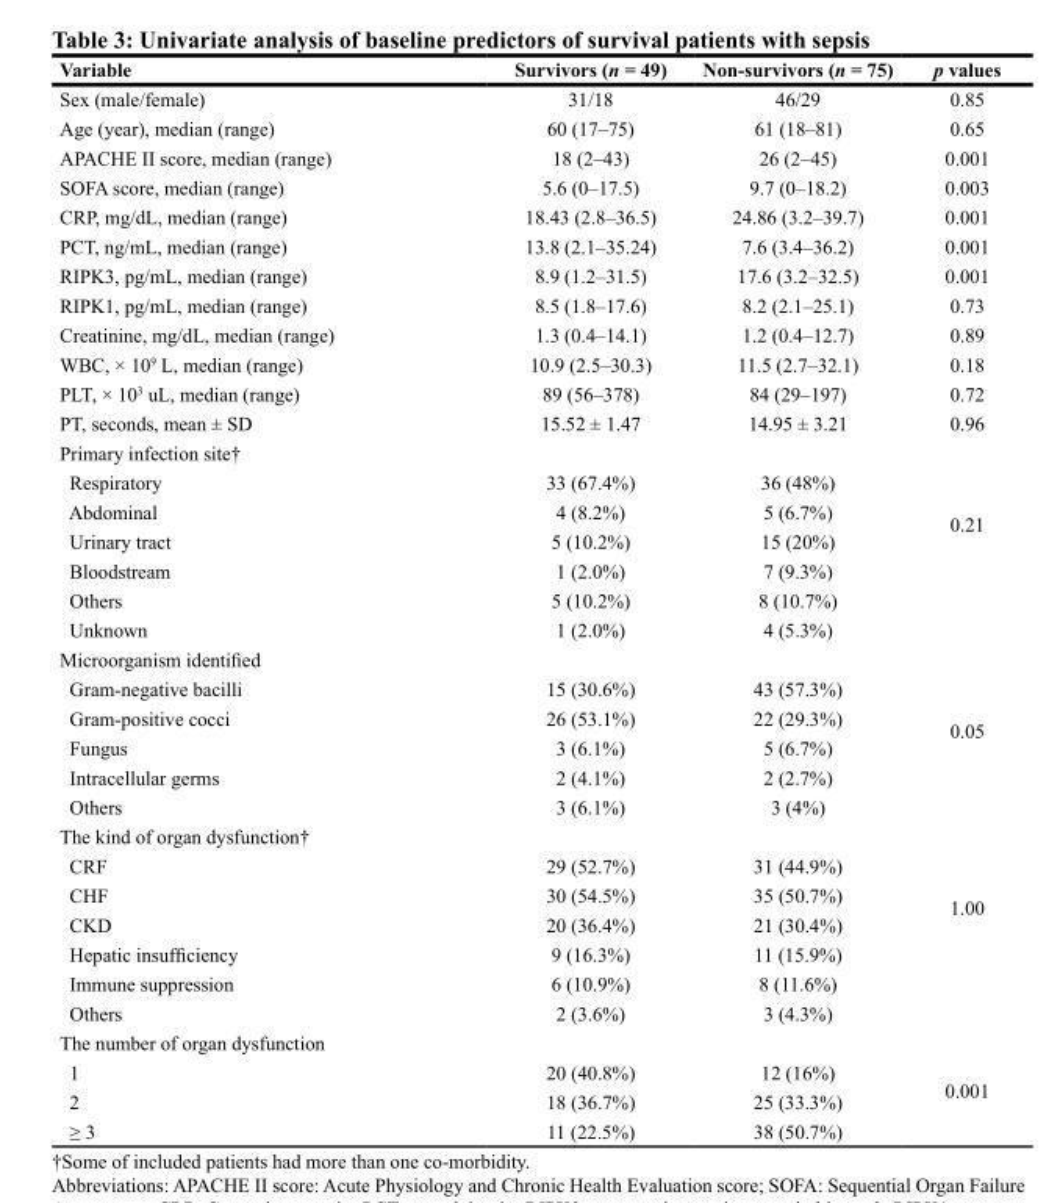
<table><thead><tr><td>Variable</td><td>Survivors (n = 49)</td><td>Non-survivors (n = 75)</td><td>p values</td></tr></thead><tbody><tr><td>Sex (male/female)</td><td>31/18</td><td>46/29</td><td>0.85</td></tr><tr><td>Age (year), median (range)</td><td>60 (17–75)</td><td>61 (18–81)</td><td>0.65</td></tr><tr><td>APACHE II score, median (range)</td><td>18 (2–43)</td><td>26 (2–45)</td><td>0.001</td></tr><tr><td>SOFA score, median (range)</td><td>5.6 (0–17.5)</td><td>9.7 (0–18.2)</td><td>0.003</td></tr><tr><td>CRP, mg/dL, median (range)</td><td>18.43 (2.8–36.5)</td><td>24.86 (3.2–39.7)</td><td>0.001</td></tr><tr><td>PCT, ng/mL, median (range)</td><td>13.8 (2.1–35.24)</td><td>7.6 (3.4–36.2)</td><td>0.001</td></tr><tr><td>RIPK3, pg/mL, median (range)</td><td>8.9 (1.2–31.5)</td><td>17.6 (3.2–32.5)</td><td>0.001</td></tr><tr><td>RIPK1, pg/mL, median (range)</td><td>8.5 (1.8–17.6)</td><td>8.2 (2.1–25.1)</td><td>0.73</td></tr><tr><td>Creatinine, mg/dL, median (range)</td><td>1.3 (0.4–14.1)</td><td>1.2 (0.4–12.7)</td><td>0.89</td></tr><tr><td>WBC, × 10<sup>9</sup> L, median (range)</td><td>10.9 (2.5–30.3)</td><td>11.5 (2.7–32.1)</td><td>0.18</td></tr><tr><td>PLT, × 10<sup>3</sup> uL, median (range)</td><td>89 (56–378)</td><td>84 (29–197)</td><td>0.72</td></tr><tr><td>PT, seconds, mean ± SD</td><td>15.52 ± 1.47</td><td>14.95 ± 3.21</td><td>0.96</td></tr><tr><td colspan="4">Primary infection site†</td></tr><tr><td>Respiratory</td><td>33 (67.4%)</td><td>36 (48%)</td><td rowspan="6">0.21</td></tr><tr><td>Abdominal</td><td>4 (8.2%)</td><td>5 (6.7%)</td></tr><tr><td>Urinary tract</td><td>5 (10.2%)</td><td>15 (20%)</td></tr><tr><td>Bloodstream</td><td>1 (2.0%)</td><td>7 (9.3%)</td></tr><tr><td>Others</td><td>5 (10.2%)</td><td>8 (10.7%)</td></tr><tr><td>Unknown</td><td>1 (2.0%)</td><td>4 (5.3%)</td></tr><tr><td colspan="4">Microorganism identified</td></tr><tr><td>Gram-negative bacilli</td><td>15 (30.6%)</td><td>43 (57.3%)</td><td rowspan="5">0.05</td></tr><tr><td>Gram-positive cocci</td><td>26 (53.1%)</td><td>22 (29.3%)</td></tr><tr><td>Fungus</td><td>3 (6.1%)</td><td>5 (6.7%)</td></tr><tr><td>Intracellular germs</td><td>2 (4.1%)</td><td>2 (2.7%)</td></tr><tr><td>Others</td><td>3 (6.1%)</td><td>3 (4%)</td></tr><tr><td colspan="4">The kind of organ dysfunction†</td></tr><tr><td>CRF</td><td>29 (52.7%)</td><td>31 (44.9%)</td><td rowspan="6">1.00</td></tr><tr><td>CHF</td><td>30 (54.5%)</td><td>35 (50.7%)</td></tr><tr><td>CKD</td><td>20 (36.4%)</td><td>21 (30.4%)</td></tr><tr><td>Hepatic insufficiency</td><td>9 (16.3%)</td><td>11 (15.9%)</td></tr><tr><td>Immune suppression</td><td>6 (10.9%)</td><td>8 (11.6%)</td></tr><tr><td>Others</td><td>2 (3.6%)</td><td>3 (4.3%)</td></tr><tr><td colspan="4">The number of organ dysfunction</td></tr><tr><td>1</td><td>20 (40.8%)</td><td>12 (16%)</td><td rowspan="3">0.001</td></tr><tr><td>2</td><td>18 (36.7%)</td><td>25 (33.3%)</td></tr><tr><td>≥ 3</td><td>11 (22.5%)</td><td>38 (50.7%)</td></tr></tbody></table>